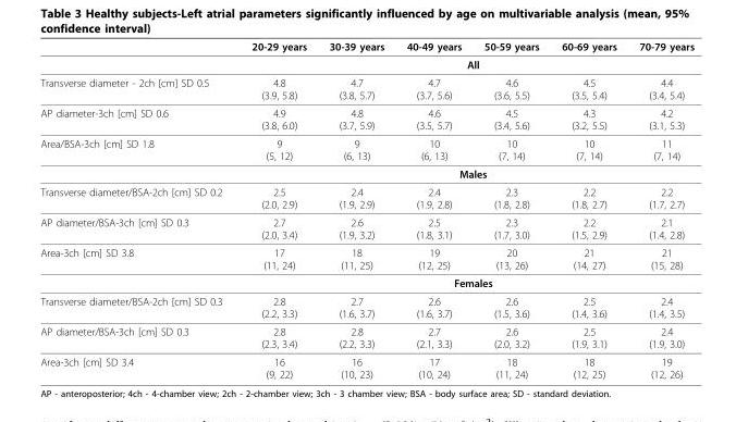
<table><thead><tr><td></td><td>20-29 years</td><td>30-39 years</td><td>40-49 years</td><td>50-59 years</td><td>60-69 years</td><td>70-79 years</td></tr></thead><tbody><tr><td></td><td colspan="6">All</td></tr><tr><td>Transverse diameter - 2ch [cm] SD 0.5</td><td>4.8 (3.9, 5.8)</td><td>4.7 (3.8, 5.7)</td><td>4.7 (3.7, 5.6)</td><td>4.6 (3.6, 5.5)</td><td>4.5 (3.5, 5.4)</td><td>4.4 (3.4, 5.4)</td></tr><tr><td>AP diameter-3ch [cm] SD 0.6</td><td>4.9 (3.8, 6.0)</td><td>4.8 (3.7, 5.9)</td><td>4.6 (3.5, 5.7)</td><td>4.5 (3.4, 5.6)</td><td>4.3 (3.2, 5.5)</td><td>4.2 (3.1, 5.3)</td></tr><tr><td rowspan="2">Area/BSA-3ch [cm] SD 1.8</td><td>9 (5, 12)</td><td>9 (6, 13)</td><td>10 (6, 13)</td><td>10 (7, 14)</td><td>10 (7, 14)</td><td>11 (7, 14)</td></tr><tr><td colspan="6">Males</td></tr><tr><td>Transverse diameter/BSA-2ch [cm] SD 0.2</td><td>2.5 (2.0, 2.9)</td><td>2.4 (1.9, 2.9)</td><td>2.4 (1.9, 2.8)</td><td>2.3 (1.8, 2.8)</td><td>2.2 (1.8, 2.7)</td><td>2.2 (1.7, 2.7)</td></tr><tr><td>AP diameter/BSA-3ch [cm] SD 0.3</td><td>2.7 (2.0, 3.4)</td><td>2.6 (1.9, 3.2)</td><td>2.5 (1.8, 3.1)</td><td>2.3 (1.7, 3.0)</td><td>2.2 (1.5, 2.9)</td><td>2.1 (1.4, 2.8)</td></tr><tr><td rowspan="2">Area-3ch [cm] SD 3.8</td><td>17 (11, 24)</td><td>18 (11, 25)</td><td>19 (12, 25)</td><td>20 (13, 26)</td><td>21 (14, 27)</td><td>21 (15, 28)</td></tr><tr><td colspan="6">Females</td></tr><tr><td>Transverse diameter/BSA-2ch [cm] SD 0.3</td><td>2.8 (2.2, 3.3)</td><td>2.7 (1.6, 3.7)</td><td>2.6 (1.6, 3.7)</td><td>2.6 (1.5, 3.6)</td><td>2.5 (1.4, 3.6)</td><td>2.4 (1.4, 3.5)</td></tr><tr><td>AP diameter/BSA-3ch [cm] SD 0.3</td><td>2.8 (2.3, 3.4)</td><td>2.8 (2.2, 3.3)</td><td>2.7 (2.1, 3.3)</td><td>2.6 (2.0, 3.2)</td><td>2.5 (1.9, 3.1)</td><td>2.4 (1.9, 3.0)</td></tr><tr><td>Area-3ch [cm] SD 3.4</td><td>16 (9, 22)</td><td>16 (10, 23)</td><td>17 (10, 24)</td><td>18 (11, 24)</td><td>18 (12, 25)</td><td>19 (12, 26)</td></tr></tbody></table>